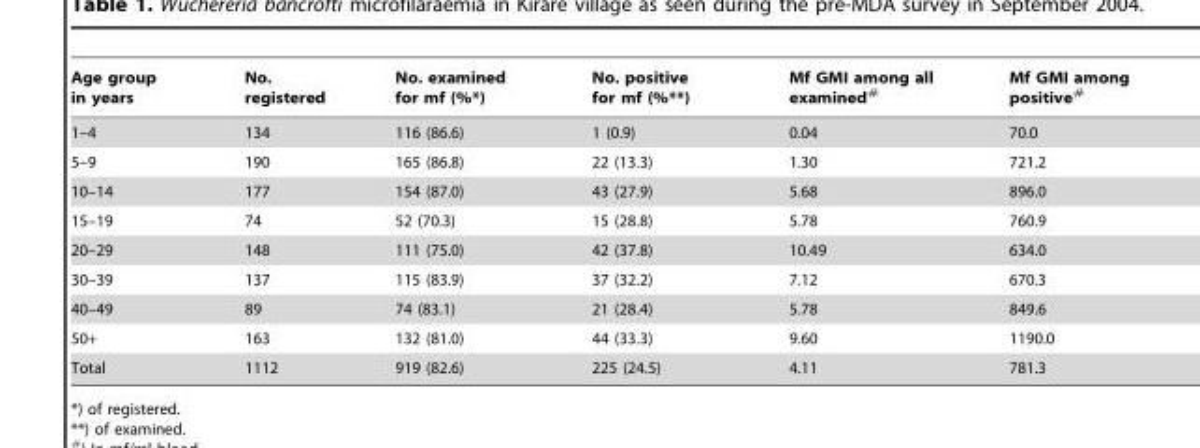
<table><thead><tr><td>Age group in years</td><td>No. registered</td><td>No. examined for mf (%*)</td><td>No. positive for mf (%**)</td><td>Mf GMI among all examined#</td><td>Mf GMI among positive#</td></tr></thead><tbody><tr><td>1–4</td><td>134</td><td>116 (86.6)</td><td>1 (0.9)</td><td>0.04</td><td>70.0</td></tr><tr><td>5–9</td><td>190</td><td>165 (86.8)</td><td>22 (13.3)</td><td>1.30</td><td>721.2</td></tr><tr><td>10–14</td><td>177</td><td>154 (87.0)</td><td>43 (27.9)</td><td>5.68</td><td>896.0</td></tr><tr><td>15–19</td><td>74</td><td>52 (70.3)</td><td>15 (28.8)</td><td>5.78</td><td>760.9</td></tr><tr><td>20–29</td><td>148</td><td>111 (75.0)</td><td>42 (37.8)</td><td>10.49</td><td>634.0</td></tr><tr><td>30–39</td><td>137</td><td>115 (83.9)</td><td>37 (32.2)</td><td>7.12</td><td>670.3</td></tr><tr><td>40–49</td><td>89</td><td>74 (83.1)</td><td>21 (28.4)</td><td>5.78</td><td>849.6</td></tr><tr><td>50+</td><td>163</td><td>132 (81.0)</td><td>44 (33.3)</td><td>9.60</td><td>1190.0</td></tr><tr><td>Total</td><td>1112</td><td>919 (82.6)</td><td>225 (24.5)</td><td>4.11</td><td>781.3</td></tr></tbody></table>